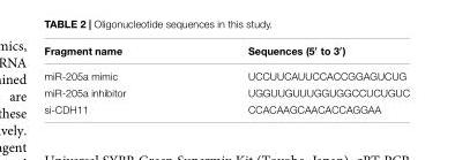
<table><thead><tr><td>Fragment name</td><td>Sequences (5′ to 3′)</td></tr></thead><tbody><tr><td>miR-205a mimic</td><td>UCCUUCAUUCCACCGGAGUCUG</td></tr><tr><td>miR-205a inhibitor</td><td>UGGUUGUUUGGUGGCCUCUGUC</td></tr><tr><td>si-CDH11</td><td>CCACAAGCAACACCAGGAA</td></tr></tbody></table>